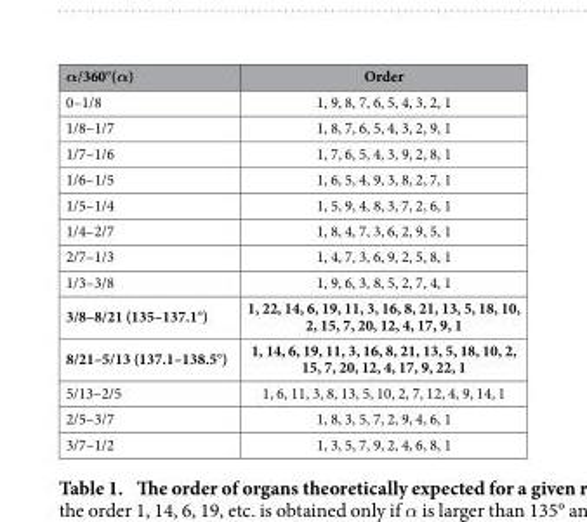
<table><thead><tr><td>α/360°(α)</td><td>Order</td></tr></thead><tbody><tr><td>0–1/8</td><td>1, 9, 8, 7, 6, 5, 4, 3, 2, 1</td></tr><tr><td>1/8–1/7</td><td>1, 8, 7, 6, 5, 4, 3, 2, 9, 1</td></tr><tr><td>1/7–1/6</td><td>1, 7, 6, 5, 4, 3, 9, 2, 8, 1</td></tr><tr><td>1/6–1/5</td><td>1, 6, 5, 4, 9, 3, 8, 2, 7, 1</td></tr><tr><td>1/5–1/4</td><td>1, 5, 9, 4, 8, 3, 7, 2, 6, 1</td></tr><tr><td>1/4–2/7</td><td>1, 8, 4, 7, 3, 6, 2, 9, 5, 1</td></tr><tr><td>2/7–1/3</td><td>1, 4, 7, 3, 6, 9, 2, 5, 8, 1</td></tr><tr><td>1/3–3/8</td><td>1, 9, 6, 3, 8, 5, 2, 7, 4, 1</td></tr><tr><td>3/8–8/21 (135–137.1°)</td><td>1, 22, 14, 6, 19, 11, 3, 16, 8, 21, 13, 5, 18, 10, 2, 15, 7, 20, 12, 4, 17, 9, 1</td></tr><tr><td>8/21–5/13 (137.1–138.5°)</td><td>1, 14, 6, 19, 11, 3, 16, 8, 21, 13, 5, 18, 10, 2, 15, 7, 20, 12, 4, 17, 9, 22, 1</td></tr><tr><td>5/13–2/5</td><td>1, 6, 11, 3, 8, 13, 5, 10, 2, 7, 12, 4, 9, 14, 1</td></tr><tr><td>2/5–3/7</td><td>1, 8, 3, 5, 7, 2, 9, 4, 6, 1</td></tr><tr><td>3/7–1/2</td><td>1, 3, 5, 7, 9, 2, 4, 6, 8, 1</td></tr></tbody></table>